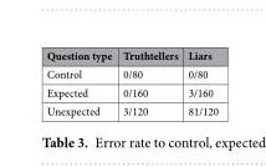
<table><thead><tr><td>Question type</td><td>Truthtellers</td><td>Liars</td></tr></thead><tbody><tr><td>Control</td><td>0/80</td><td>0/80</td></tr><tr><td>Expected</td><td>0/160</td><td>3/160</td></tr><tr><td>Unexpected</td><td>3/120</td><td>81/120</td></tr></tbody></table>